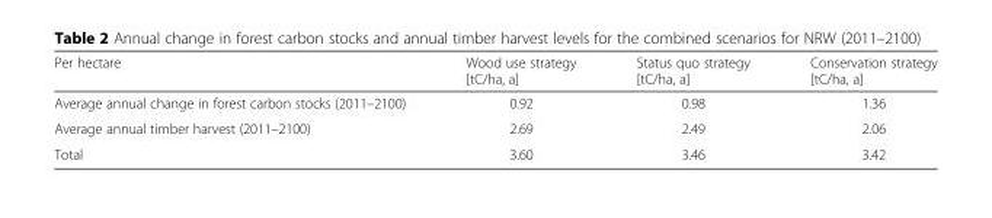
<table><thead><tr><td>Per hectare</td><td>Wood use strategy [tC/ha, a]</td><td>Status quo strategy [tC/ha, a]</td><td>Conservation strategy [tC/ha, a]</td></tr></thead><tbody><tr><td>Average annual change in forest carbon stocks (2011–2100)</td><td>0.92</td><td>0.98</td><td>1.36</td></tr><tr><td>Average annual timber harvest (2011–2100)</td><td>2.69</td><td>2.49</td><td>2.06</td></tr><tr><td>Total</td><td>3.60</td><td>3.46</td><td>3.42</td></tr></tbody></table>